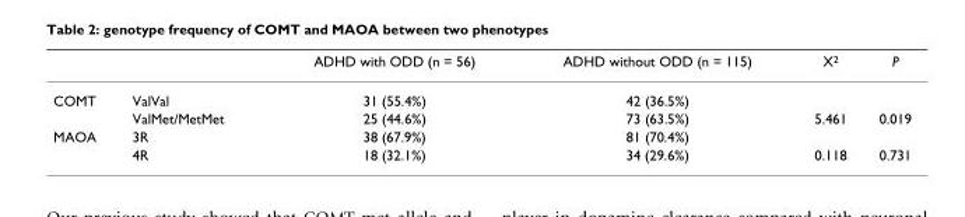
<table><thead><tr><td></td><td></td><td>ADHD with ODD (n = 56)</td><td>ADHD without ODD (n = 115)</td><td>X<sup>2</sup></td><td>P</td></tr></thead><tbody><tr><td rowspan="2">COMT</td><td>ValVal</td><td>31 (55.4%)</td><td>42 (36.5%)</td><td></td><td></td></tr><tr><td>ValMet/MetMet</td><td>25 (44.6%)</td><td>73 (63.5%)</td><td>5.461</td><td>0.019</td></tr><tr><td rowspan="2">MAOA</td><td>3R</td><td>38 (67.9%)</td><td>81 (70.4%)</td><td></td><td></td></tr><tr><td>4R</td><td>18 (32.1%)</td><td>34 (29.6%)</td><td>0.118</td><td>0.731</td></tr></tbody></table>